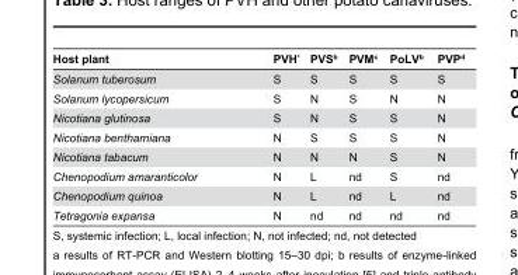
<table><thead><tr><td>Host plant</td><td>PVH <sup>a</sup></td><td>PVS<sup>b</sup></td><td>PVM<sup>c</sup></td><td>PoLV<sup>b</sup></td><td>PVP<sup>d</sup></td></tr></thead><tbody><tr><td>Solanum tuberosum</td><td>S</td><td>S</td><td>S</td><td>S</td><td>S</td></tr><tr><td>Solanum lycopersicum</td><td>S</td><td>N</td><td>S</td><td>N</td><td>N</td></tr><tr><td>Nicotiana glutinosa</td><td>S</td><td>N</td><td>S</td><td>S</td><td>N</td></tr><tr><td>Nicotiana benthamiana</td><td>N</td><td>S</td><td>S</td><td>S</td><td>N</td></tr><tr><td>Nicotiana tabacum</td><td>N</td><td>N</td><td>N</td><td>S</td><td>N</td></tr><tr><td>Chenopodium amaranticolor</td><td>N</td><td>L</td><td>nd</td><td>S</td><td>nd</td></tr><tr><td>Chenopodium quinoa</td><td>N</td><td>L</td><td>nd</td><td>L</td><td>nd</td></tr><tr><td>Tetragonia expansa</td><td>N</td><td>nd</td><td>nd</td><td>nd</td><td>nd</td></tr></tbody></table>